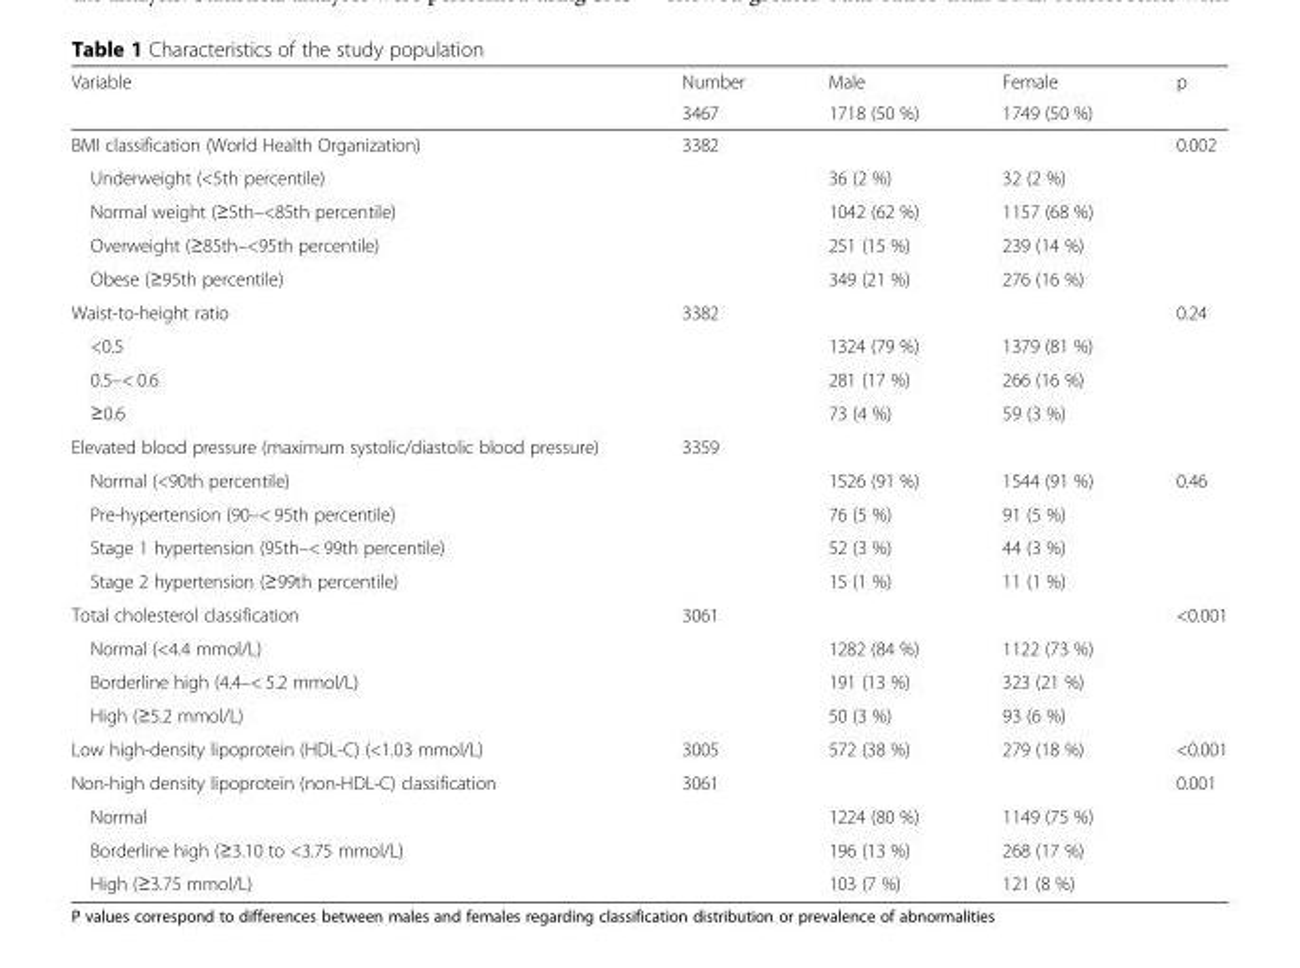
<table><thead><tr><td rowspan="2">Variable</td><td rowspan="2">Number 3467</td><td rowspan="2">Male 1718 (50 %)</td><td rowspan="2">Female 1749 (50 %)</td><td rowspan="2">p</td></tr><tr></tr></thead><tbody><tr><td>BMI classification (World Health Organization)</td><td>3382</td><td></td><td></td><td>0.002</td></tr><tr><td>Underweight (&lt;5th percentile)</td><td></td><td>36 (2 %)</td><td>32 (2 %)</td><td></td></tr><tr><td>Normal weight (≥5th–&lt;85th percentile)</td><td></td><td>1042 (62 %)</td><td>1157 (68 %)</td><td></td></tr><tr><td>Overweight (≥85th–&lt;95th percentile)</td><td></td><td>251 (15 %)</td><td>239 (14 %)</td><td></td></tr><tr><td>Obese (≥95th percentile)</td><td></td><td>349 (21 %)</td><td>276 (16 %)</td><td></td></tr><tr><td>Waist-to-height ratio</td><td>3382</td><td></td><td></td><td>0.24</td></tr><tr><td>&lt;0.5</td><td></td><td>1324 (79 %)</td><td>1379 (81 %)</td><td></td></tr><tr><td>0.5–&lt; 0.6</td><td></td><td>281 (17 %)</td><td>266 (16 %)</td><td></td></tr><tr><td>≥0.6</td><td></td><td>73 (4 %)</td><td>59 (3 %)</td><td></td></tr><tr><td>Elevated blood pressure (maximum systolic/diastolic blood pressure)</td><td>3359</td><td></td><td></td><td></td></tr><tr><td>Normal (&lt;90th percentile)</td><td></td><td>1526 (91 %)</td><td>1544 (91 %)</td><td>0.46</td></tr><tr><td>Pre-hypertension (90–&lt; 95th percentile)</td><td></td><td>76 (5 %)</td><td>91 (5 %)</td><td></td></tr><tr><td>Stage 1 hypertension (95th–&lt; 99th percentile)</td><td></td><td>52 (3 %)</td><td>44 (3 %)</td><td></td></tr><tr><td>Stage 2 hypertension (≥99th percentile)</td><td></td><td>15 (1 %)</td><td>11 (1 %)</td><td></td></tr><tr><td>Total cholesterol classification</td><td>3061</td><td></td><td></td><td>&lt;0.001</td></tr><tr><td>Normal (&lt;4.4 mmol/L)</td><td></td><td>1282 (84 %)</td><td>1122 (73 %)</td><td></td></tr><tr><td>Borderline high (4.4–&lt; 5.2 mmol/L)</td><td></td><td>191 (13 %)</td><td>323 (21 %)</td><td></td></tr><tr><td>High (≥5.2 mmol/L)</td><td></td><td>50 (3 %)</td><td>93 (6 %)</td><td></td></tr><tr><td>Low high-density lipoprotein (HDL-C) (&lt;1.03 mmol/L)</td><td>3005</td><td>572 (38 %)</td><td>279 (18 %)</td><td>&lt;0.001</td></tr><tr><td>Non-high density lipoprotein (non-HDL-C) classification</td><td>3061</td><td></td><td></td><td>0.001</td></tr><tr><td>Normal</td><td></td><td>1224 (80 %)</td><td>1149 (75 %)</td><td></td></tr><tr><td>Borderline high (≥3.10 to &lt;3.75 mmol/L)</td><td></td><td>196 (13 %)</td><td>268 (17 %)</td><td></td></tr><tr><td>High (≥3.75 mmol/L)</td><td></td><td>103 (7 %)</td><td>121 (8 %)</td><td></td></tr></tbody></table>